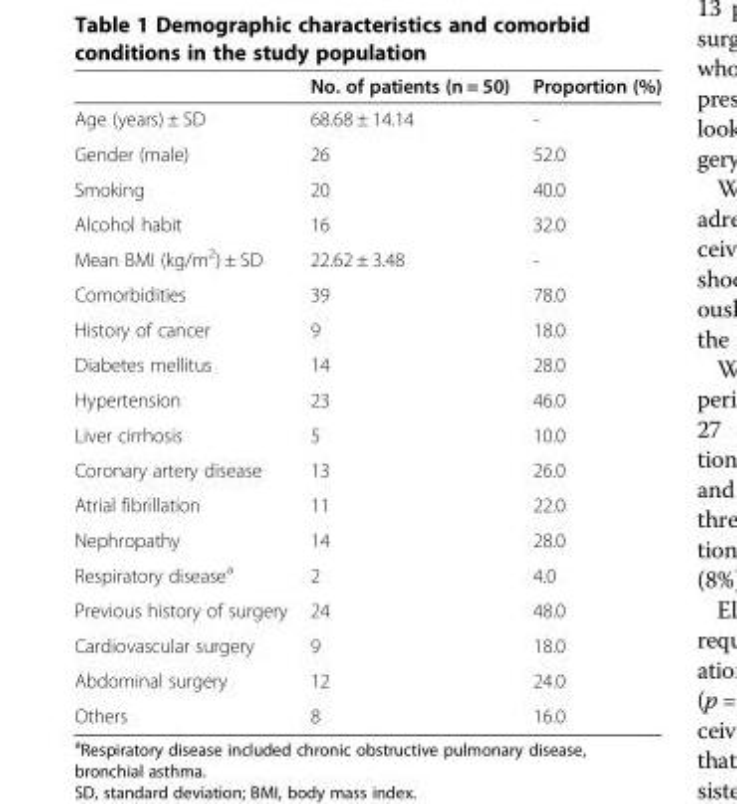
<table><thead><tr><td></td><td>No. of patients (n = 50)</td><td>Proportion (%)</td></tr></thead><tbody><tr><td>Age (years) ± SD</td><td>68.68 ± 14.14</td><td>-</td></tr><tr><td>Gender (male)</td><td>26</td><td>52.0</td></tr><tr><td>Smoking</td><td>20</td><td>40.0</td></tr><tr><td>Alcohol habit</td><td>16</td><td>32.0</td></tr><tr><td>Mean BMI (kg/m<sup>2</sup>) ± SD</td><td>22.62 ± 3.48</td><td>-</td></tr><tr><td>Comorbidities</td><td>39</td><td>78.0</td></tr><tr><td>History of cancer</td><td>9</td><td>18.0</td></tr><tr><td>Diabetes mellitus</td><td>14</td><td>28.0</td></tr><tr><td>Hypertension</td><td>23</td><td>46.0</td></tr><tr><td>Liver cirrhosis</td><td>5</td><td>10.0</td></tr><tr><td>Coronary artery disease</td><td>13</td><td>26.0</td></tr><tr><td>Atrial fibrillation</td><td>11</td><td>22.0</td></tr><tr><td>Nephropathy</td><td>14</td><td>28.0</td></tr><tr><td>Respiratory disease<sup>a</sup></td><td>2</td><td>4.0</td></tr><tr><td>Previous history of surgery</td><td>24</td><td>48.0</td></tr><tr><td>Cardiovascular surgery</td><td>9</td><td>18.0</td></tr><tr><td>Abdominal surgery</td><td>12</td><td>24.0</td></tr><tr><td>Others</td><td>8</td><td>16.0</td></tr></tbody></table>